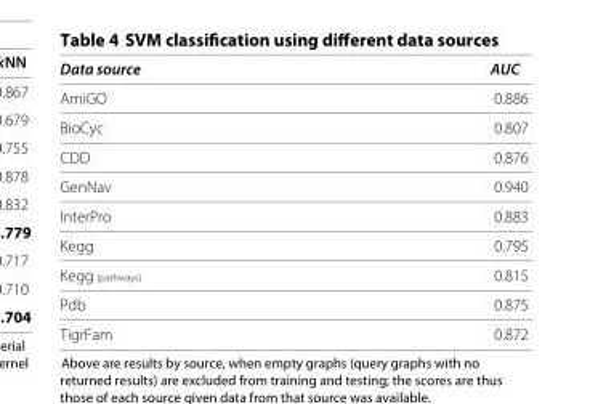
<table><thead><tr><td>Data source</td><td>AUC</td></tr></thead><tbody><tr><td>AmiGO</td><td>0.886</td></tr><tr><td>BioCyc</td><td>0.807</td></tr><tr><td>CDD</td><td>0.876</td></tr><tr><td>GenNav</td><td>0.940</td></tr><tr><td>InterPro</td><td>0.883</td></tr><tr><td>Kegg</td><td>0.795</td></tr><tr><td>Kegg (pathways)</td><td>0.815</td></tr><tr><td>Pdb</td><td>0.875</td></tr><tr><td>TigrFam</td><td>0.872</td></tr></tbody></table>